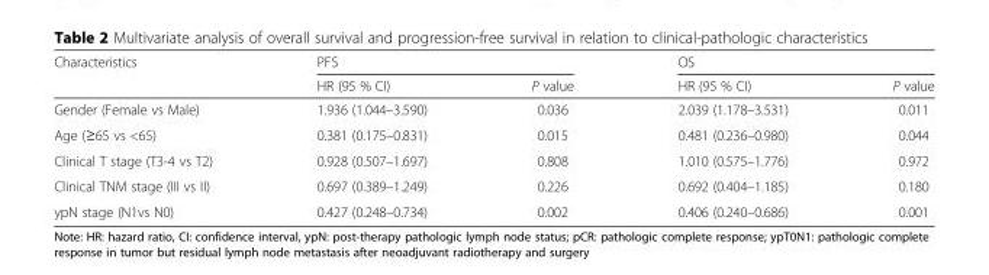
<table><thead><tr><td rowspan="2">Characteristics</td><td colspan="2">PFS</td><td colspan="2">OS</td></tr><tr><td>HR (95 % CI)</td><td>P value</td><td>HR (95 % CI)</td><td>P value</td></tr></thead><tbody><tr><td>Gender (Female vs Male)</td><td>1.936 (1.044–3.590)</td><td>0.036</td><td>2.039 (1.178–3.531)</td><td>0.011</td></tr><tr><td>Age (≥65 vs &lt;65)</td><td>0.381 (0.175–0.831)</td><td>0.015</td><td>0.481 (0.236–0.980)</td><td>0.044</td></tr><tr><td>Clinical T stage (T3-4 vs T2)</td><td>0.928 (0.507–1.697)</td><td>0.808</td><td>1.010 (0.575–1.776)</td><td>0.972</td></tr><tr><td>Clinical TNM stage (III vs II)</td><td>0.697 (0.389–1.249)</td><td>0.226</td><td>0.692 (0.404–1.185)</td><td>0.180</td></tr><tr><td>ypN stage (N1vs N0)</td><td>0.427 (0.248–0.734)</td><td>0.002</td><td>0.406 (0.240–0.686)</td><td>0.001</td></tr></tbody></table>